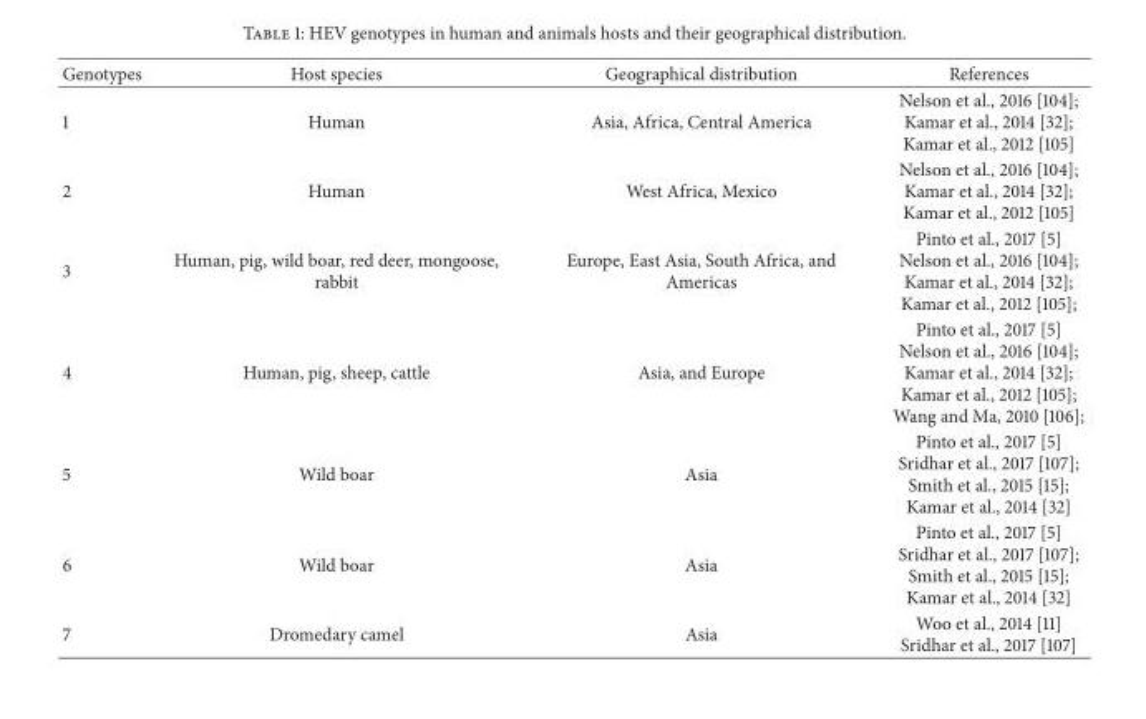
<table><thead><tr><td>Genotypes</td><td>Host species</td><td>Geographical distribution</td><td>References</td></tr></thead><tbody><tr><td>1</td><td>Human</td><td>Asia, Africa, Central America</td><td>Nelson et al., 2016 [104]; Kamar et al., 2014 [32]; Kamar et al., 2012 [105]</td></tr><tr><td>2</td><td>Human</td><td>West Africa, Mexico</td><td>Nelson et al., 2016 [104]; Kamar et al., 2014 [32]; Kamar et al., 2012 [105]</td></tr><tr><td>3</td><td>Human, pig, wild boar, red deer, mongoose, rabbit</td><td>Europe, East Asia, South Africa, and Americas</td><td>Pinto et al., 2017 [5] Nelson et al., 2016 [104]; Kamar et al., 2014 [32]; Kamar et al., 2012 [105];</td></tr><tr><td>4</td><td>Human, pig, sheep, cattle</td><td>Asia, and Europe</td><td>Pinto et al., 2017 [5] Nelson et al., 2016 [104]; Kamar et al., 2014 [32]; Kamar et al., 2012 [105]; Wang and Ma, 2010 [106];</td></tr><tr><td>5</td><td>Wild boar</td><td>Asia</td><td>Pinto et al., 2017 [5] Sridhar et al., 2017 [107]; Smith et al., 2015 [15]; Kamar et al., 2014 [32]</td></tr><tr><td>6</td><td>Wild boar</td><td>Asia</td><td>Pinto et al., 2017 [5] Sridhar et al., 2017 [107]; Smith et al., 2015 [15]; Kamar et al., 2014 [32]</td></tr><tr><td>7</td><td>Dromedary camel</td><td>Asia</td><td>Woo et al., 2014 [11] Sridhar et al., 2017 [107]</td></tr></tbody></table>